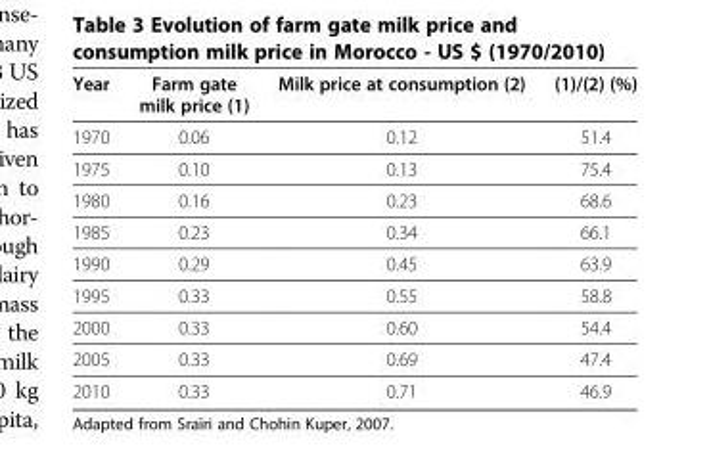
<table><thead><tr><td>Year</td><td>Farm gate milk price (1)</td><td>Milk price at consumption (2)</td><td>(1)/(2) (%)</td></tr></thead><tbody><tr><td>1970</td><td>0.06</td><td>0.12</td><td>51.4</td></tr><tr><td>1975</td><td>0.10</td><td>0.13</td><td>75.4</td></tr><tr><td>1980</td><td>0.16</td><td>0.23</td><td>68.6</td></tr><tr><td>1985</td><td>0.23</td><td>0.34</td><td>66.1</td></tr><tr><td>1990</td><td>0.29</td><td>0.45</td><td>63.9</td></tr><tr><td>1995</td><td>0.33</td><td>0.55</td><td>58.8</td></tr><tr><td>2000</td><td>0.33</td><td>0.60</td><td>54.4</td></tr><tr><td>2005</td><td>0.33</td><td>0.69</td><td>47.4</td></tr><tr><td>2010</td><td>0.33</td><td>0.71</td><td>46.9</td></tr></tbody></table>